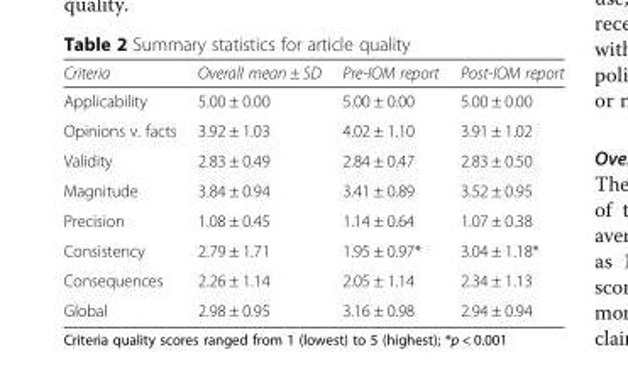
<table><thead><tr><td>Criteria</td><td>Overall mean ± SD</td><td>Pre-IOM report</td><td>Post-IOM report</td></tr></thead><tbody><tr><td>Applicability</td><td>5.00 ± 0.00</td><td>5.00 ± 0.00</td><td>5.00 ± 0.00</td></tr><tr><td>Opinions v. facts</td><td>3.92 ± 1.03</td><td>4.02 ± 1.10</td><td>3.91 ± 1.02</td></tr><tr><td>Validity</td><td>2.83 ± 0.49</td><td>2.84 ± 0.47</td><td>2.83 ± 0.50</td></tr><tr><td>Magnitude</td><td>3.84 ± 0.94</td><td>3.41 ± 0.89</td><td>3.52 ± 0.95</td></tr><tr><td>Precision</td><td>1.08 ± 0.45</td><td>1.14 ± 0.64</td><td>1.07 ± 0.38</td></tr><tr><td>Consistency</td><td>2.79 ± 1.71</td><td>1.95 ± 0.97*</td><td>3.04 ± 1.18*</td></tr><tr><td>Consequences</td><td>2.26 ± 1.14</td><td>2.05 ± 1.14</td><td>2.34 ± 1.13</td></tr><tr><td>Global</td><td>2.98 ± 0.95</td><td>3.16 ± 0.98</td><td>2.94 ± 0.94</td></tr></tbody></table>